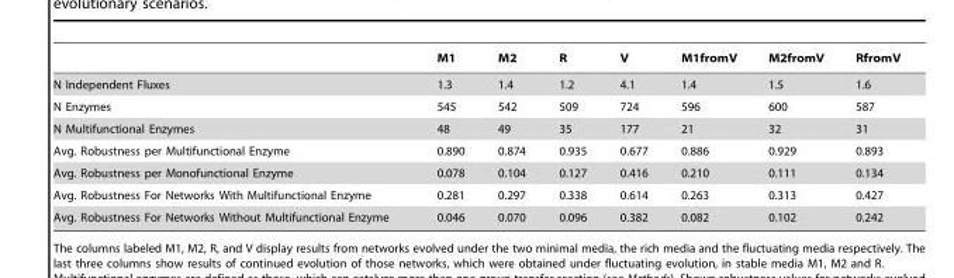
<table><thead><tr><td></td><td>M1</td><td>M2</td><td>R</td><td>V</td><td>M1fromV</td><td>M2fromV</td><td>RfromV</td></tr></thead><tbody><tr><td>N Independent Fluxes</td><td>1.3</td><td>1.4</td><td>1.2</td><td>4.1</td><td>1.4</td><td>1.5</td><td>1.6</td></tr><tr><td>N Enzymes</td><td>545</td><td>542</td><td>509</td><td>724</td><td>596</td><td>600</td><td>587</td></tr><tr><td>N Multifunctional Enzymes</td><td>48</td><td>49</td><td>35</td><td>177</td><td>21</td><td>32</td><td>31</td></tr><tr><td>Avg. Robustness per Multifunctional Enzyme</td><td>0.890</td><td>0.874</td><td>0.935</td><td>0.677</td><td>0.886</td><td>0.929</td><td>0.893</td></tr><tr><td>Avg. Robustness per Monofunctional Enzyme</td><td>0.078</td><td>0.104</td><td>0.127</td><td>0.416</td><td>0.210</td><td>0.111</td><td>0.134</td></tr><tr><td>Avg. Robustness For Networks With Multifunctional Enzyme</td><td>0.281</td><td>0.297</td><td>0.338</td><td>0.614</td><td>0.263</td><td>0.313</td><td>0.427</td></tr><tr><td>Avg. Robustness For Networks Without Multifunctional Enzyme</td><td>0.046</td><td>0.070</td><td>0.096</td><td>0.382</td><td>0.082</td><td>0.102</td><td>0.242</td></tr></tbody></table>